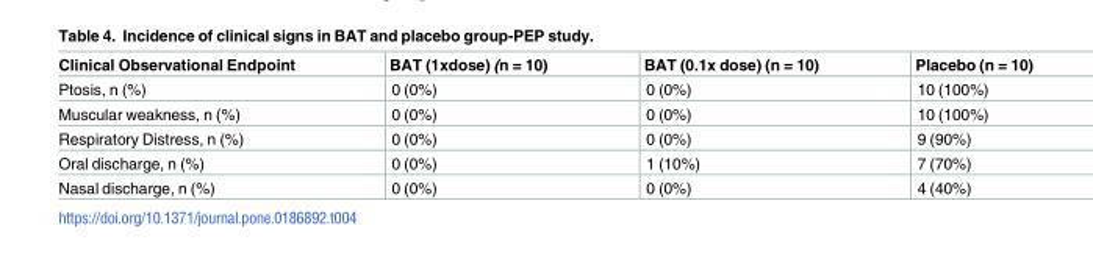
<table><thead><tr><td>Clinical Observational Endpoint</td><td>BAT (1xdose) (n = 10)</td><td>BAT (0.1x dose) (n = 10)</td><td>Placebo (n = 10)</td></tr></thead><tbody><tr><td>Ptosis, n (%)</td><td>0 (0%)</td><td>0 (0%)</td><td>10 (100%)</td></tr><tr><td>Muscular weakness, n (%)</td><td>0 (0%)</td><td>0 (0%)</td><td>10 (100%)</td></tr><tr><td>Respiratory Distress, n (%)</td><td>0 (0%)</td><td>0 (0%)</td><td>9 (90%)</td></tr><tr><td>Oral discharge, n (%)</td><td>0 (0%)</td><td>1 (10%)</td><td>7 (70%)</td></tr><tr><td>Nasal discharge, n (%)</td><td>0 (0%)</td><td>0 (0%)</td><td>4 (40%)</td></tr></tbody></table>